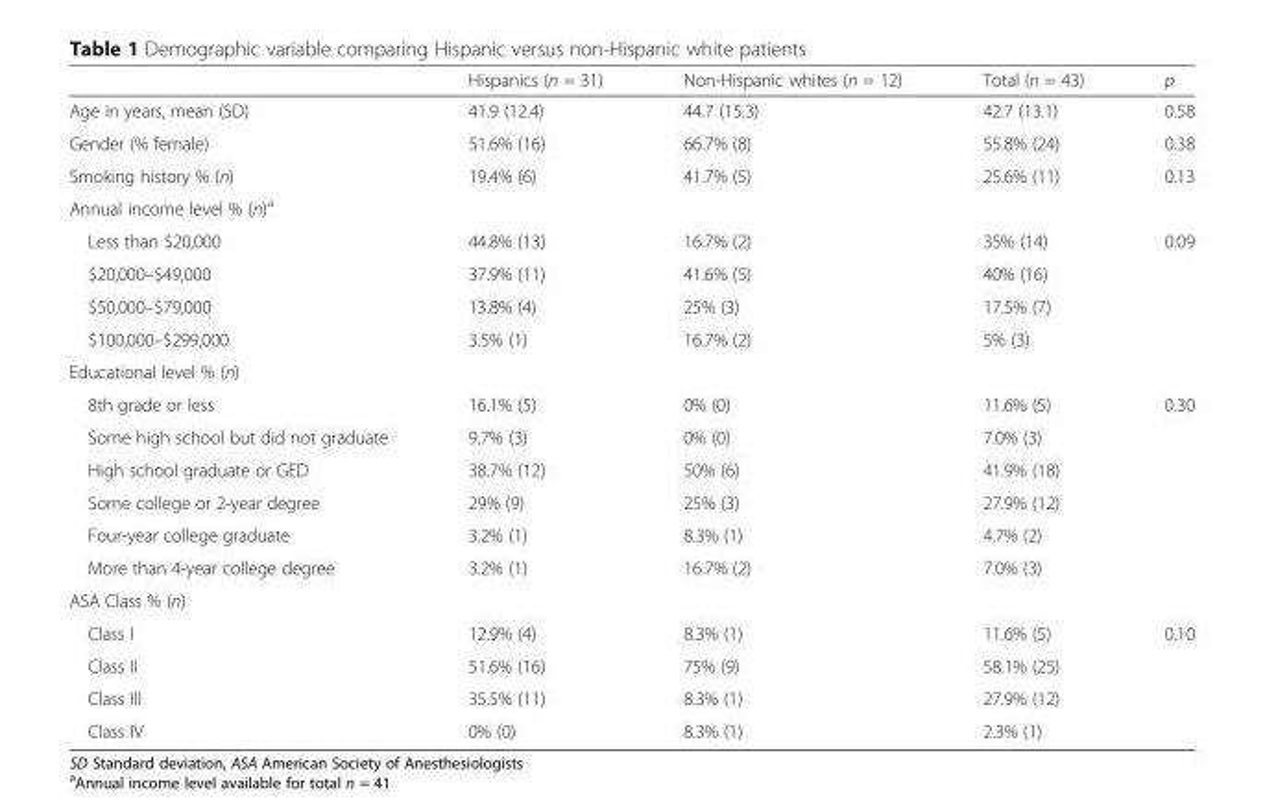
<table><thead><tr><td></td><td>Hispanics (n = 31)</td><td>Non-Hispanic whites (n = 12)</td><td>Total (n = 43)</td><td>p</td></tr></thead><tbody><tr><td>Age in years, mean (SD)</td><td>41.9 (12.4)</td><td>44.7 (15.3)</td><td>42.7 (13.1)</td><td>0.58</td></tr><tr><td>Gender (% female)</td><td>51.6% (16)</td><td>66.7% (8)</td><td>55.8% (24)</td><td>0.38</td></tr><tr><td>Smoking history % (n)</td><td>19.4% (6)</td><td>41.7% (5)</td><td>25.6% (11)</td><td>0.13</td></tr><tr><td colspan="5">Annual income level % (n)<sup>a</sup></td></tr><tr><td>Less than $20,000</td><td>44.8% (13)</td><td>16.7% (2)</td><td>35% (14)</td><td rowspan="4">0.09</td></tr><tr><td>$20,000–$49,000</td><td>37.9% (11)</td><td>41.6% (5)</td><td>40% (16)</td></tr><tr><td>$50,000–$79,000</td><td>13.8% (4)</td><td>25% (3)</td><td>17.5% (7)</td></tr><tr><td>$100,000–$299,000</td><td>3.5% (1)</td><td>16.7% (2)</td><td>5% (3)</td></tr><tr><td colspan="5">Educational level % (n)</td></tr><tr><td>8th grade or less</td><td>16.1% (5)</td><td>0% (0)</td><td>11.6% (5)</td><td rowspan="6">0.30</td></tr><tr><td>Some high school but did not graduate</td><td>9.7% (3)</td><td>0% (0)</td><td>7.0% (3)</td></tr><tr><td>High school graduate or GED</td><td>38.7% (12)</td><td>50% (6)</td><td>41.9% (18)</td></tr><tr><td>Some college or 2-year degree</td><td>29% (9)</td><td>25% (3)</td><td>27.9% (12)</td></tr><tr><td>Four-year college graduate</td><td>3.2% (1)</td><td>8.3% (1)</td><td>4.7% (2)</td></tr><tr><td>More than 4-year college degree</td><td>3.2% (1)</td><td>16.7% (2)</td><td>7.0% (3)</td></tr><tr><td colspan="5">ASA Class % (n)</td></tr><tr><td>Class I</td><td>12.9% (4)</td><td>8.3% (1)</td><td>11.6% (5)</td><td rowspan="4">0.10</td></tr><tr><td>Class II</td><td>51.6% (16)</td><td>75% (9)</td><td>58.1% (25)</td></tr><tr><td>Class III</td><td>35.5% (11)</td><td>8.3% (1)</td><td>27.9% (12)</td></tr><tr><td>Class IV</td><td>0% (0)</td><td>8.3% (1)</td><td>2.3% (1)</td></tr></tbody></table>